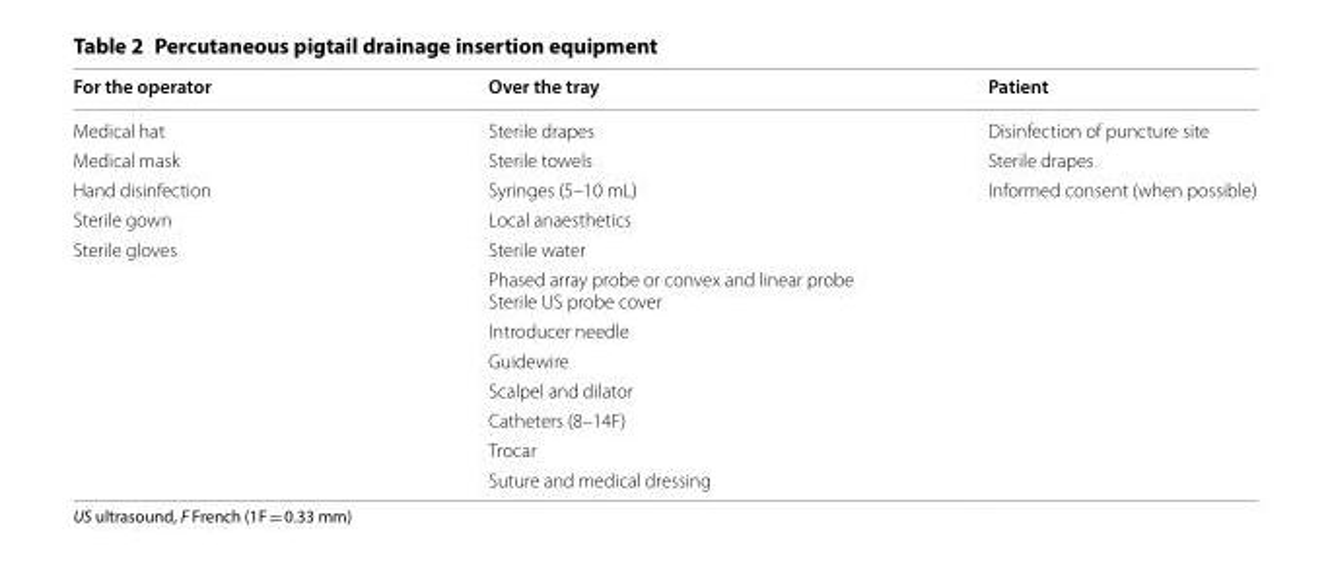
<table><thead><tr><td>For the operator</td><td>Over the tray</td><td>Patient</td></tr></thead><tbody><tr><td>Medical hat</td><td>Sterile drapes</td><td>Disinfection of puncture site</td></tr><tr><td>Medical mask</td><td>Sterile towels</td><td>Sterile drapes</td></tr><tr><td>Hand disinfection</td><td>Syringes (5–10 mL)</td><td>Informed consent (when possible)</td></tr><tr><td>Sterile gown</td><td>Local anaesthetics</td><td></td></tr><tr><td rowspan="8">Sterile gloves</td><td>Sterile water</td><td></td></tr><tr><td>Phased array probe or convex and linear probe Sterile US probe cover</td><td></td></tr><tr><td>Introducer needle</td><td></td></tr><tr><td>Guidewire</td><td></td></tr><tr><td>Scalpel and dilator</td><td></td></tr><tr><td>Catheters (8–14F)</td><td></td></tr><tr><td>Trocar</td><td></td></tr><tr><td>Suture and medical dressing</td><td></td></tr></tbody></table>